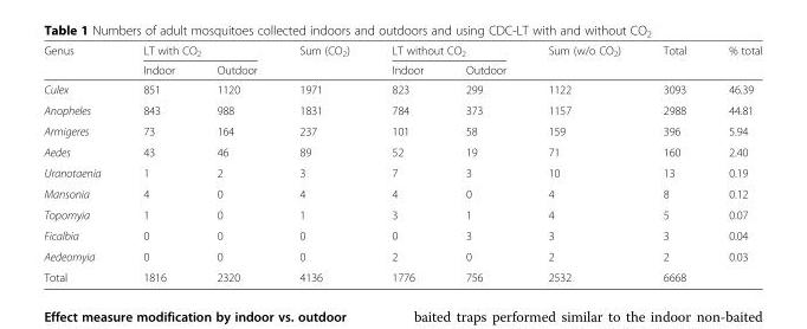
<table><thead><tr><td rowspan="2">Genus</td><td colspan="2">LT with CO<sub>2</sub></td><td rowspan="2">Sum (CO<sub>2</sub>)</td><td colspan="2">LT without CO<sub>2</sub></td><td rowspan="2">Sum (w/o CO<sub>2</sub>)</td><td rowspan="2">Total</td><td rowspan="2">% total</td></tr><tr><td>Indoor</td><td>Outdoor</td><td>Indoor</td><td>Outdoor</td></tr></thead><tbody><tr><td>Culex</td><td>851</td><td>1120</td><td>1971</td><td>823</td><td>299</td><td>1122</td><td>3093</td><td>46.39</td></tr><tr><td>Anopheles</td><td>843</td><td>988</td><td>1831</td><td>784</td><td>373</td><td>1157</td><td>2988</td><td>44.81</td></tr><tr><td>Armigeres</td><td>73</td><td>164</td><td>237</td><td>101</td><td>58</td><td>159</td><td>396</td><td>5.94</td></tr><tr><td>Aedes</td><td>43</td><td>46</td><td>89</td><td>52</td><td>19</td><td>71</td><td>160</td><td>2.40</td></tr><tr><td>Uranotaenia</td><td>1</td><td>2</td><td>3</td><td>7</td><td>3</td><td>10</td><td>13</td><td>0.19</td></tr><tr><td>Mansonia</td><td>4</td><td>0</td><td>4</td><td>4</td><td>0</td><td>4</td><td>8</td><td>0.12</td></tr><tr><td>Topomyia</td><td>1</td><td>0</td><td>1</td><td>3</td><td>1</td><td>4</td><td>5</td><td>0.07</td></tr><tr><td>Ficalbia</td><td>0</td><td>0</td><td>0</td><td>0</td><td>3</td><td>3</td><td>3</td><td>0.04</td></tr><tr><td>Aedeomyia</td><td>0</td><td>0</td><td>0</td><td>2</td><td>0</td><td>2</td><td>2</td><td>0.03</td></tr><tr><td>Total</td><td>1816</td><td>2320</td><td>4136</td><td>1776</td><td>756</td><td>2532</td><td>6668</td><td></td></tr></tbody></table>